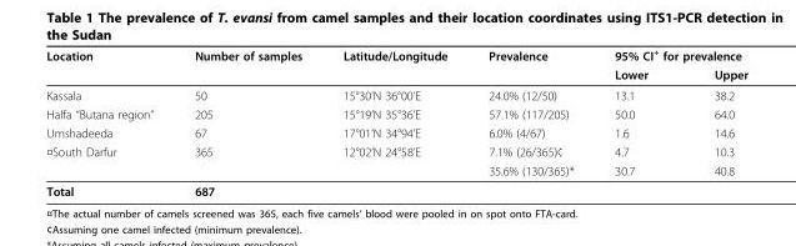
<table><thead><tr><td rowspan="2">Location</td><td rowspan="2">Number of samples</td><td rowspan="2">Latitude/Longitude</td><td rowspan="2">Prevalence</td><td colspan="2">95% CI<sup>+</sup> for prevalence</td></tr><tr><td>Lower</td><td>Upper</td></tr></thead><tbody><tr><td>Kassala</td><td>50</td><td>15°30’N 36°00’E</td><td>24.0% (12/50)</td><td>13.1</td><td>38.2</td></tr><tr><td>Halfa “Butana region”</td><td>205</td><td>15°19’N 35°36’E</td><td>57.1% (117/205)</td><td>50.0</td><td>64.0</td></tr><tr><td>Umshadeeda</td><td>67</td><td>17°01’N 34°94’E</td><td>6.0% (4/67)</td><td>1.6</td><td>14.6</td></tr><tr><td rowspan="2">¤South Darfur</td><td>365</td><td>12°02’N 24°58’E</td><td>7.1% (26/365)¢</td><td>4.7</td><td>10.3</td></tr><tr><td></td><td></td><td>35.6% (130/365)*</td><td>30.7</td><td>40.8</td></tr><tr><td>Total</td><td>687</td><td></td><td></td><td></td><td></td></tr></tbody></table>